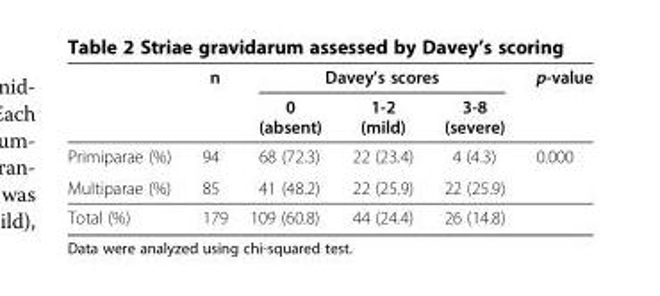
<table><thead><tr><td rowspan="2"></td><td rowspan="2">n</td><td colspan="3">Davey’s scores</td><td rowspan="2">p-value</td></tr><tr><td>0 (absent)</td><td>1-2 (mild)</td><td>3-8 (severe)</td></tr></thead><tbody><tr><td>Primiparae (%)</td><td>94</td><td>68 (72.3)</td><td>22 (23.4)</td><td>4 (4.3)</td><td>0.000</td></tr><tr><td>Multiparae (%)</td><td>85</td><td>41 (48.2)</td><td>22 (25.9)</td><td>22 (25.9)</td><td></td></tr><tr><td>Total (%)</td><td>179</td><td>109 (60.8)</td><td>44 (24.4)</td><td>26 (14.8)</td><td></td></tr></tbody></table>